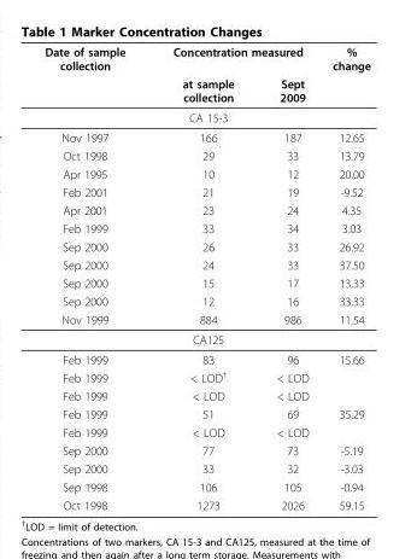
<table><thead><tr><td rowspan="2">Date of sample collection</td><td colspan="2">Concentration measured</td><td rowspan="2">% change</td></tr><tr><td>at sample collection</td><td>Sept 2009</td></tr></thead><tbody><tr><td></td><td>CA 15-3</td><td></td><td></td></tr><tr><td>Nov 1997</td><td>166</td><td>187</td><td>12.65</td></tr><tr><td>Oct 1998</td><td>29</td><td>33</td><td>13.79</td></tr><tr><td>Apr 1995</td><td>10</td><td>12</td><td>20.00</td></tr><tr><td>Feb 2001</td><td>21</td><td>19</td><td>-9.52</td></tr><tr><td>Apr 2001</td><td>23</td><td>24</td><td>4.35</td></tr><tr><td>Feb 1999</td><td>33</td><td>34</td><td>3.03</td></tr><tr><td>Sep 2000</td><td>26</td><td>33</td><td>26.92</td></tr><tr><td>Sep 2000</td><td>24</td><td>33</td><td>37.50</td></tr><tr><td>Sep 2000</td><td>15</td><td>17</td><td>13.33</td></tr><tr><td>Sep 2000</td><td>12</td><td>16</td><td>33.33</td></tr><tr><td rowspan="2">Nov 1999</td><td>884</td><td>986</td><td>11.54</td></tr><tr><td>CA125</td><td></td><td></td></tr><tr><td>Feb 1999</td><td>83</td><td>96</td><td>15.66</td></tr><tr><td>Feb 1999</td><td>&lt; LOD<sup>†</sup></td><td>&lt; LOD</td><td></td></tr><tr><td>Feb 1999</td><td>&lt; LOD</td><td>&lt; LOD</td><td></td></tr><tr><td>Feb 1999</td><td>51</td><td>69</td><td>35.29</td></tr><tr><td>Feb 1999</td><td>&lt; LOD</td><td>&lt; LOD</td><td></td></tr><tr><td>Sep 2000</td><td>77</td><td>73</td><td>-5.19</td></tr><tr><td>Sep 2000</td><td>33</td><td>32</td><td>-3.03</td></tr><tr><td>Sep 1998</td><td>106</td><td>105</td><td>-0.94</td></tr><tr><td>Oct 1998</td><td>1273</td><td>2026</td><td>59.15</td></tr></tbody></table>